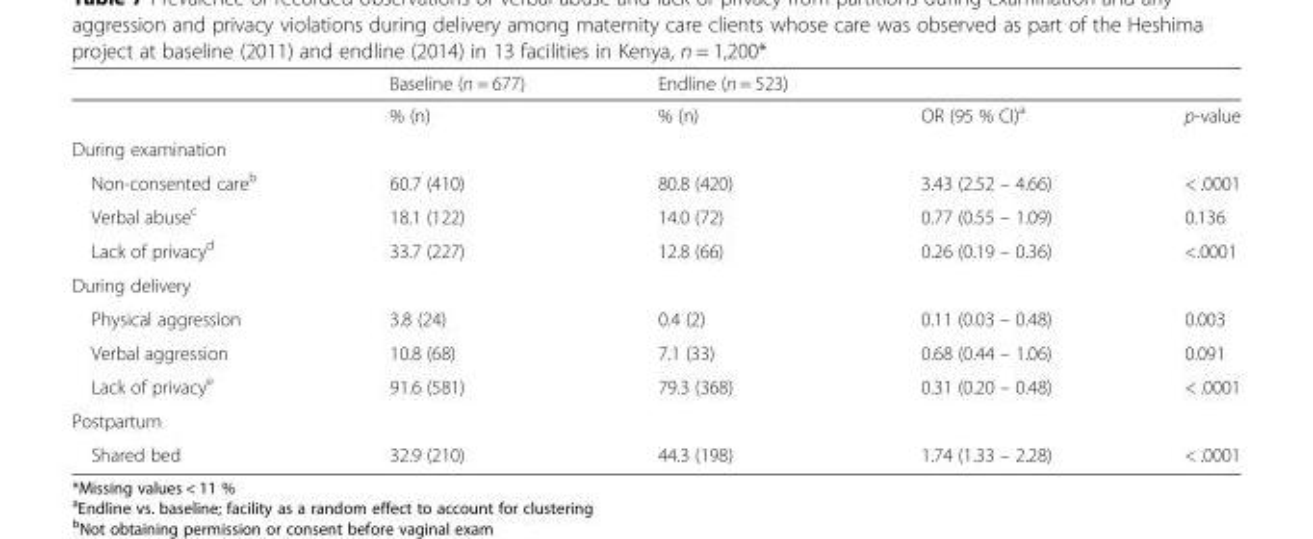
<table><thead><tr><td></td><td>Baseline (n = 677)</td><td>Endline (n = 523)</td><td></td><td></td></tr></thead><tbody><tr><td></td><td>% (n)</td><td>% (n)</td><td>OR (95 % CI)<sup>a</sup></td><td>p-value</td></tr><tr><td colspan="5">During examination</td></tr><tr><td>Non-consented care<sup>b</sup></td><td>60.7 (410)</td><td>80.8 (420)</td><td>3.43 (2.52 – 4.66)</td><td>&lt; .0001</td></tr><tr><td>Verbal abuse<sup>c</sup></td><td>18.1 (122)</td><td>14.0 (72)</td><td>0.77 (0.55 – 1.09)</td><td>0.136</td></tr><tr><td>Lack of privacy<sup>d</sup></td><td>33.7 (227)</td><td>12.8 (66)</td><td>0.26 (0.19 – 0.36)</td><td>&lt;.0001</td></tr><tr><td colspan="5">During delivery</td></tr><tr><td>Physical aggression</td><td>3.8 (24)</td><td>0.4 (2)</td><td>0.11 (0.03 – 0.48)</td><td>0.003</td></tr><tr><td>Verbal aggression</td><td>10.8 (68)</td><td>7.1 (33)</td><td>0.68 (0.44 – 1.06)</td><td>0.091</td></tr><tr><td>Lack of privacy<sup>e</sup></td><td>91.6 (581)</td><td>79.3 (368)</td><td>0.31 (0.20 – 0.48)</td><td>&lt; .0001</td></tr><tr><td colspan="5">Postpartum</td></tr><tr><td>Shared bed</td><td>32.9 (210)</td><td>44.3 (198)</td><td>1.74 (1.33 – 2.28)</td><td>&lt; .0001</td></tr></tbody></table>